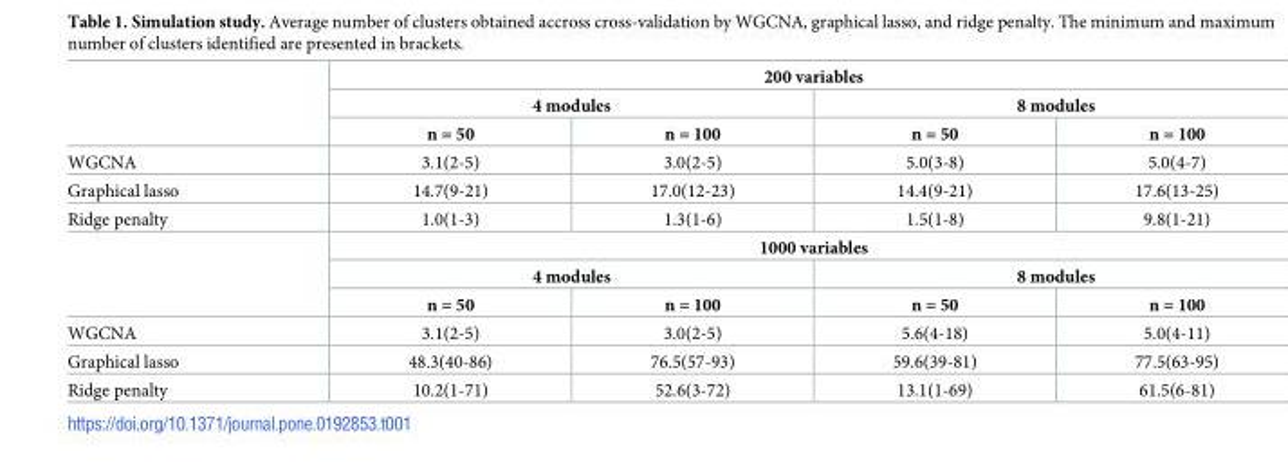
<table><thead><tr><td rowspan="3"></td><td colspan="4">200 variables</td></tr><tr><td colspan="2">4 modules</td><td colspan="2">8 modules</td></tr><tr><td>n = 50</td><td>n = 100</td><td>n = 50</td><td>n = 100</td></tr></thead><tbody><tr><td>WGCNA</td><td>3.1(2-5)</td><td>3.0(2-5)</td><td>5.0(3-8)</td><td>5.0(4-7)</td></tr><tr><td>Graphical lasso</td><td>14.7(9-21)</td><td>17.0(12-23)</td><td>14.4(9-21)</td><td>17.6(13-25)</td></tr><tr><td rowspan="4">Ridge penalty</td><td>1.0(1-3)</td><td>1.3(1-6)</td><td>1.5(1-8)</td><td>9.8(1-21)</td></tr><tr><td colspan="4">1000 variables</td></tr><tr><td colspan="2">4 modules</td><td colspan="2">8 modules</td></tr><tr><td>n = 50</td><td>n = 100</td><td>n = 50</td><td>n = 100</td></tr><tr><td>WGCNA</td><td>3.1(2-5)</td><td>3.0(2-5)</td><td>5.6(4-18)</td><td>5.0(4-11)</td></tr><tr><td>Graphical lasso</td><td>48.3(40-86)</td><td>76.5(57-93)</td><td>59.6(39-81)</td><td>77.5(63-95)</td></tr><tr><td>Ridge penalty</td><td>10.2(1-71)</td><td>52.6(3-72)</td><td>13.1(1-69)</td><td>61.5(6-81)</td></tr></tbody></table>